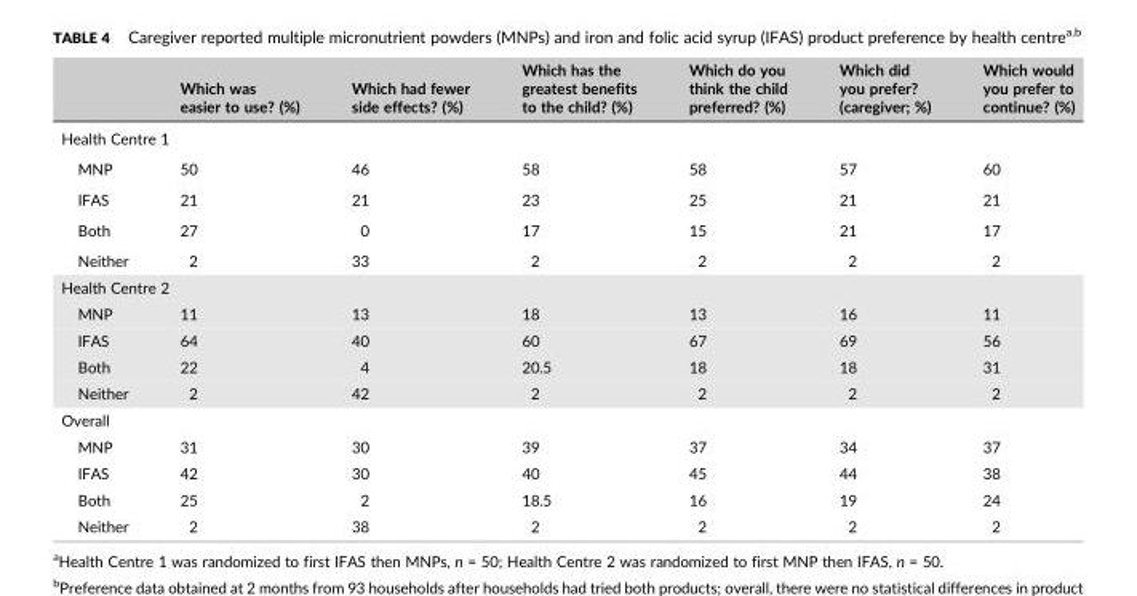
<table><thead><tr><td></td><td>Which was easier to use? (%)</td><td>Which had fewer side effects? (%)</td><td>Which has the greatest benefits to the child? (%)</td><td>Which do you think the child preferred? (%)</td><td>Which did you prefer? (caregiver; %)</td><td>Which would you prefer to continue? (%)</td></tr></thead><tbody><tr><td colspan="7">Health Centre 1</td></tr><tr><td>MNP</td><td>50</td><td>46</td><td>58</td><td>58</td><td>57</td><td>60</td></tr><tr><td>IFAS</td><td>21</td><td>21</td><td>23</td><td>25</td><td>21</td><td>21</td></tr><tr><td>Both</td><td>27</td><td>0</td><td>17</td><td>15</td><td>21</td><td>17</td></tr><tr><td>Neither</td><td>2</td><td>33</td><td>2</td><td>2</td><td>2</td><td>2</td></tr><tr><td colspan="7">Health Centre 2</td></tr><tr><td>MNP</td><td>11</td><td>13</td><td>18</td><td>13</td><td>16</td><td>11</td></tr><tr><td>IFAS</td><td>64</td><td>40</td><td>60</td><td>67</td><td>69</td><td>56</td></tr><tr><td>Both</td><td>22</td><td>4</td><td>20.5</td><td>18</td><td>18</td><td>31</td></tr><tr><td>Neither</td><td>2</td><td>42</td><td>2</td><td>2</td><td>2</td><td>2</td></tr><tr><td colspan="7">Overall</td></tr><tr><td>MNP</td><td>31</td><td>30</td><td>39</td><td>37</td><td>34</td><td>37</td></tr><tr><td>IFAS</td><td>42</td><td>30</td><td>40</td><td>45</td><td>44</td><td>38</td></tr><tr><td>Both</td><td>25</td><td>2</td><td>18.5</td><td>16</td><td>19</td><td>24</td></tr><tr><td>Neither</td><td>2</td><td>38</td><td>2</td><td>2</td><td>2</td><td>2</td></tr></tbody></table>